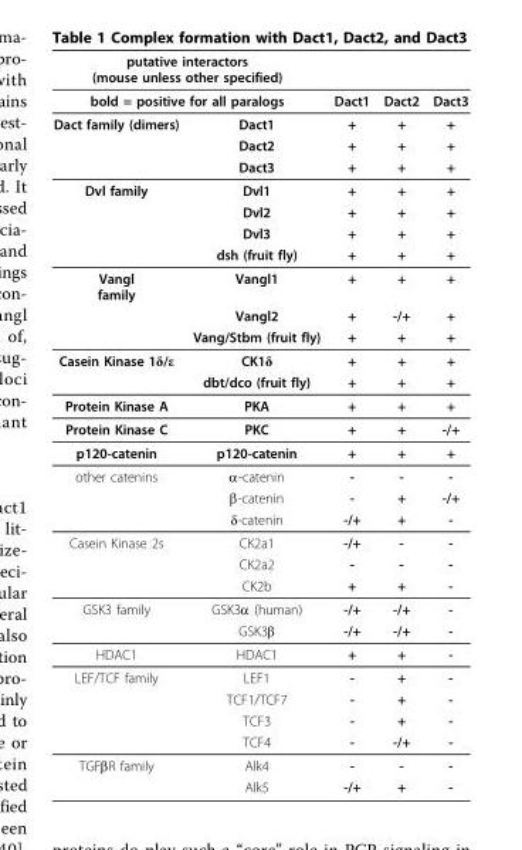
<table><thead><tr><td rowspan="2" colspan="2">putative interactors (mouse unless other specified) bold = positive for all paralogs</td><td rowspan="3">Dact1 +</td><td rowspan="3">Dact2 +</td><td rowspan="3">Dact3 +</td></tr><tr></tr><tr><td>Dact family (dimers)</td><td>Dact1</td></tr></thead><tbody><tr><td></td><td>Dact2</td><td>+</td><td>+</td><td>+</td></tr><tr><td></td><td>Dact3</td><td>+</td><td>+</td><td>+</td></tr><tr><td rowspan="4">Dvl family</td><td>Dvl1</td><td>+</td><td>+</td><td>+</td></tr><tr><td>Dvl2</td><td>+</td><td>+</td><td>+</td></tr><tr><td>Dvl3</td><td>+</td><td>+</td><td>+</td></tr><tr><td>dsh (fruit fly)</td><td>+</td><td>+</td><td>+</td></tr><tr><td rowspan="3">Vangl family</td><td>Vangl1</td><td>+</td><td>+</td><td>+</td></tr><tr><td>Vangl2</td><td>+</td><td>-/+</td><td>+</td></tr><tr><td>Vang/Stbm (fruit fly)</td><td>+</td><td>+</td><td>+</td></tr><tr><td rowspan="2">Casein Kinase 1δ/ε</td><td>CK1δ</td><td>+</td><td>+</td><td>+</td></tr><tr><td>dbt/dco (fruit fly)</td><td>+</td><td>+</td><td>+</td></tr><tr><td>Protein Kinase A</td><td>PKA</td><td>+</td><td>+</td><td>+</td></tr><tr><td>Protein Kinase C</td><td>PKC</td><td>+</td><td>+</td><td>-/+</td></tr><tr><td>p120-catenin</td><td>p120-catenin</td><td>+</td><td>+</td><td>+</td></tr><tr><td rowspan="3">other catenins</td><td>α-catenin</td><td>-</td><td>-</td><td>-</td></tr><tr><td>β-catenin</td><td>-</td><td>+</td><td>-/+</td></tr><tr><td>δ-catenin</td><td>-/+</td><td>+</td><td>-</td></tr><tr><td rowspan="3">Casein Kinase 2s</td><td>CK2a1</td><td>-/+</td><td>-</td><td>-</td></tr><tr><td>CK2a2</td><td>-</td><td>-</td><td>-</td></tr><tr><td>CK2b</td><td>+</td><td>+</td><td>-</td></tr><tr><td rowspan="2">GSK3 family</td><td>GSK3α (human)</td><td>-/+</td><td>-/+</td><td>-</td></tr><tr><td>GSK3β</td><td>-/+</td><td>-/+</td><td>-</td></tr><tr><td>HDAC1</td><td>HDAC1</td><td>+</td><td>+</td><td>-</td></tr><tr><td rowspan="4">LEF/TCF family</td><td>LEF1</td><td>-</td><td>+</td><td>-</td></tr><tr><td>TCF1/TCF7</td><td>-</td><td>+</td><td>-</td></tr><tr><td>TCF3</td><td>-</td><td>+</td><td>-</td></tr><tr><td>TCF4</td><td>-</td><td>-/+</td><td>-</td></tr><tr><td rowspan="2">TGFβR family</td><td>Alk4</td><td>-</td><td>-</td><td>-</td></tr><tr><td>Alk5</td><td>-/+</td><td>+</td><td>-</td></tr></tbody></table>